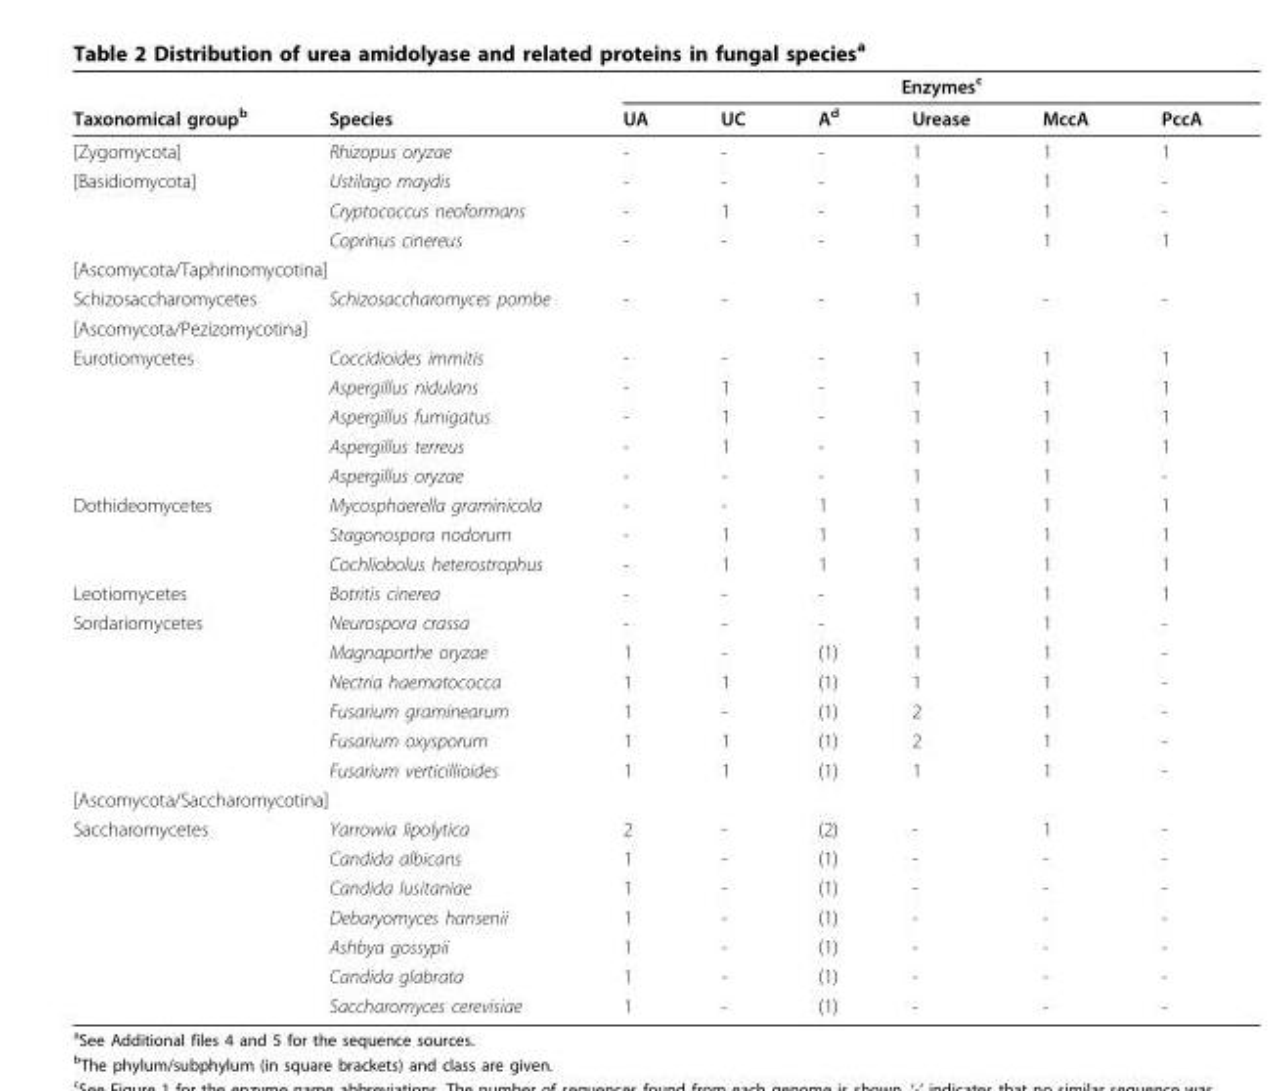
<table><thead><tr><td rowspan="2">Taxonomical group<sup>b</sup></td><td rowspan="2">Species</td><td colspan="6">Enzymes<sup>c</sup></td></tr><tr><td>UA</td><td>UC</td><td>A<sup>d</sup></td><td>Urease</td><td>MccA</td><td>PccA</td></tr></thead><tbody><tr><td>[Zygomycota]</td><td>Rhizopus oryzae</td><td>-</td><td>-</td><td>-</td><td>1</td><td>1</td><td>1</td></tr><tr><td rowspan="3">[Basidiomycota]</td><td>Ustilago maydis</td><td>-</td><td>-</td><td>-</td><td>1</td><td>1</td><td>-</td></tr><tr><td>Cryptococcus neoformans</td><td>-</td><td>1</td><td>-</td><td>1</td><td>1</td><td>-</td></tr><tr><td>Coprinus cinereus</td><td>-</td><td>-</td><td>-</td><td>1</td><td>1</td><td>1</td></tr><tr><td colspan="8">[Ascomycota/Taphrinomycotina]</td></tr><tr><td>Schizosaccharomycetes</td><td>Schizosaccharomyces pombe</td><td>-</td><td>-</td><td>-</td><td>1</td><td>-</td><td>-</td></tr><tr><td colspan="8">[Ascomycota/Pezizomycotina]</td></tr><tr><td rowspan="5">Eurotiomycetes</td><td>Coccidioides immitis</td><td>-</td><td>-</td><td>-</td><td>1</td><td>1</td><td>1</td></tr><tr><td>Aspergillus nidulans</td><td>-</td><td>1</td><td>-</td><td>1</td><td>1</td><td>1</td></tr><tr><td>Aspergillus fumigatus</td><td>-</td><td>1</td><td>-</td><td>1</td><td>1</td><td>1</td></tr><tr><td>Aspergillus terreus</td><td>-</td><td>1</td><td>-</td><td>1</td><td>1</td><td>1</td></tr><tr><td>Aspergillus oryzae</td><td>-</td><td>-</td><td>-</td><td>1</td><td>1</td><td>-</td></tr><tr><td rowspan="3">Dothideomycetes</td><td>Mycosphaerella graminicola</td><td>-</td><td>-</td><td>1</td><td>1</td><td>1</td><td>1</td></tr><tr><td>Stagonospora nodorum</td><td>-</td><td>1</td><td>1</td><td>1</td><td>1</td><td>1</td></tr><tr><td>Cochliobolus heterostrophus</td><td>-</td><td>1</td><td>1</td><td>1</td><td>1</td><td>1</td></tr><tr><td>Leotiomycetes</td><td>Botritis cinerea</td><td>-</td><td>-</td><td>-</td><td>1</td><td>1</td><td>1</td></tr><tr><td rowspan="6">Sordariomycetes</td><td>Neurospora crassa</td><td>-</td><td>-</td><td>-</td><td>1</td><td>1</td><td>-</td></tr><tr><td>Magnaporthe oryzae</td><td>1</td><td>-</td><td>(1)</td><td>1</td><td>1</td><td>-</td></tr><tr><td>Nectria haematococca</td><td>1</td><td>1</td><td>(1)</td><td>1</td><td>1</td><td>-</td></tr><tr><td>Fusarium graminearum</td><td>1</td><td>-</td><td>(1)</td><td>2</td><td>1</td><td>-</td></tr><tr><td>Fusarium oxysporum</td><td>1</td><td>1</td><td>(1)</td><td>2</td><td>1</td><td>-</td></tr><tr><td>Fusarium verticillioides</td><td>1</td><td>1</td><td>(1)</td><td>1</td><td>1</td><td>-</td></tr><tr><td colspan="8">[Ascomycota/Saccharomycotina]</td></tr><tr><td rowspan="7">Saccharomycetes</td><td>Yarrowia lipolytica</td><td>2</td><td>-</td><td>(2)</td><td>-</td><td>1</td><td>-</td></tr><tr><td>Candida albicans</td><td>1</td><td>-</td><td>(1)</td><td>-</td><td>-</td><td>-</td></tr><tr><td>Candida lusitaniae</td><td>1</td><td>-</td><td>(1)</td><td>-</td><td>-</td><td>-</td></tr><tr><td>Debaryomyces hansenii</td><td>1</td><td>-</td><td>(1)</td><td>-</td><td>-</td><td>-</td></tr><tr><td>Ashbya gossypii</td><td>1</td><td>-</td><td>(1)</td><td>-</td><td>-</td><td>-</td></tr><tr><td>Candida glabrata</td><td>1</td><td>-</td><td>(1)</td><td>-</td><td>-</td><td>-</td></tr><tr><td>Saccharomyces cerevisiae</td><td>1</td><td>-</td><td>(1)</td><td>-</td><td>-</td><td>-</td></tr></tbody></table>